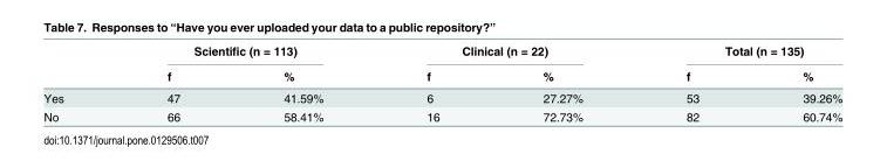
<table><thead><tr><td rowspan="2"></td><td colspan="2">Scientific (n = 113)</td><td colspan="2">Clinical (n = 22)</td><td colspan="2">Total (n = 135)</td></tr><tr><td>f</td><td>%</td><td>f</td><td>%</td><td>f</td><td>%</td></tr></thead><tbody><tr><td>Yes</td><td>47</td><td>41.59%</td><td>6</td><td>27.27%</td><td>53</td><td>39.26%</td></tr><tr><td>No</td><td>66</td><td>58.41%</td><td>16</td><td>72.73%</td><td>82</td><td>60.74%</td></tr></tbody></table>